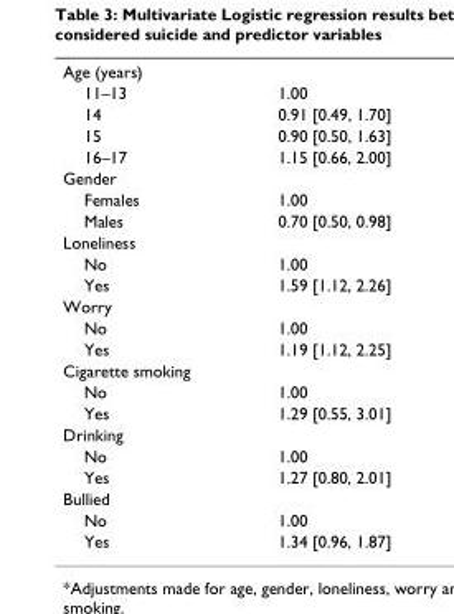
<table><tbody><tr><td colspan="2">Age (years)</td></tr><tr><td>11–13</td><td>1.00</td></tr><tr><td>14</td><td>0.91 [0.49, 1.70]</td></tr><tr><td>15</td><td>0.90 [0.50, 1.63]</td></tr><tr><td>16–17</td><td>1.15 [0.66, 2.00]</td></tr><tr><td colspan="2">Gender</td></tr><tr><td>Females</td><td>1.00</td></tr><tr><td>Males</td><td>0.70 [0.50, 0.98]</td></tr><tr><td colspan="2">Loneliness</td></tr><tr><td>No</td><td>1.00</td></tr><tr><td>Yes</td><td>1.59 [1.12, 2.26]</td></tr><tr><td colspan="2">Worry</td></tr><tr><td>No</td><td>1.00</td></tr><tr><td>Yes</td><td>1.19 [1.12, 2.25]</td></tr><tr><td colspan="2">Cigarette smoking</td></tr><tr><td>No</td><td>1.00</td></tr><tr><td>Yes</td><td>1.29 [0.55, 3.01]</td></tr><tr><td colspan="2">Drinking</td></tr><tr><td>No</td><td>1.00</td></tr><tr><td>Yes</td><td>1.27 [0.80, 2.01]</td></tr><tr><td colspan="2">Bullied</td></tr><tr><td>No</td><td>1.00</td></tr><tr><td>Yes</td><td>1.34 [0.96, 1.87]</td></tr></tbody></table>